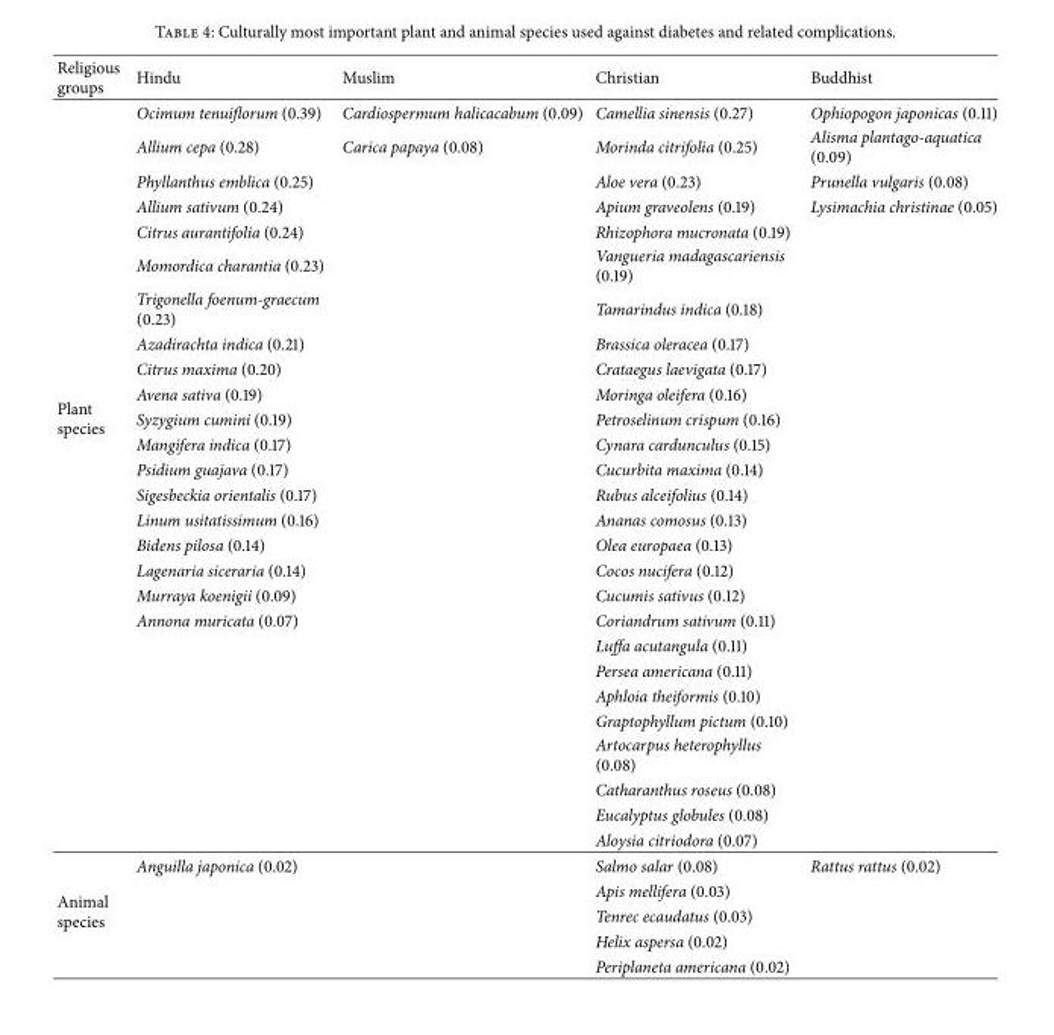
<table><thead><tr><td>Religious groups</td><td>Hindu</td><td>Muslim</td><td>Christian</td><td>Buddhist</td></tr></thead><tbody><tr><td rowspan="27">Plant species</td><td>Ocimum tenuiflorum (0.39)</td><td>Cardiospermum halicacabum (0.09)</td><td>Camellia sinensis (0.27)</td><td>Ophiopogon japonicas (0.11)</td></tr><tr><td>Allium cepa (0.28)</td><td>Carica papaya (0.08)</td><td>Morinda citrifolia (0.25)</td><td>Alisma plantago-aquatica (0.09)</td></tr><tr><td>Phyllanthus emblica (0.25)</td><td></td><td>Aloe vera (0.23)</td><td>Prunella vulgaris (0.08)</td></tr><tr><td>Allium sativum (0.24)</td><td></td><td>Apium graveolens (0.19)</td><td>Lysimachia christinae (0.05)</td></tr><tr><td>Citrus aurantifolia (0.24)</td><td></td><td>Rhizophora mucronata (0.19)</td><td></td></tr><tr><td>Momordica charantia (0.23)</td><td></td><td>Vangueria madagascariensis (0.19)</td><td></td></tr><tr><td>Trigonella foenum-graecum (0.23)</td><td></td><td>Tamarindus indica (0.18)</td><td></td></tr><tr><td>Azadirachta indica (0.21)</td><td></td><td>Brassica oleracea (0.17)</td><td></td></tr><tr><td>Citrus maxima (0.20)</td><td></td><td>Crataegus laevigata (0.17)</td><td></td></tr><tr><td>Avena sativa (0.19)</td><td></td><td>Moringa oleifera (0.16)</td><td></td></tr><tr><td>Syzygium cumini (0.19)</td><td></td><td>Petroselinum crispum (0.16)</td><td></td></tr><tr><td>Mangifera indica (0.17)</td><td></td><td>Cynara cardunculus (0.15)</td><td></td></tr><tr><td>Psidium guajava (0.17)</td><td></td><td>Cucurbita maxima (0.14)</td><td></td></tr><tr><td>Sigesbeckia orientalis (0.17)</td><td></td><td>Rubus alceifolius (0.14)</td><td></td></tr><tr><td>Linum usitatissimum (0.16)</td><td></td><td>Ananas comosus (0.13)</td><td></td></tr><tr><td>Bidens pilosa (0.14)</td><td></td><td>Olea europaea (0.13)</td><td></td></tr><tr><td>Lagenaria siceraria (0.14)</td><td></td><td>Cocos nucifera (0.12)</td><td></td></tr><tr><td>Murraya koenigii (0.09)</td><td></td><td>Cucumis sativus (0.12)</td><td></td></tr><tr><td>Annona muricata (0.07)</td><td></td><td>Coriandrum sativum (0.11)</td><td></td></tr><tr><td></td><td></td><td>Luffa acutangula (0.11)</td><td></td></tr><tr><td></td><td></td><td>Persea americana (0.11)</td><td></td></tr><tr><td></td><td></td><td>Aphloia theiformis (0.10)</td><td></td></tr><tr><td></td><td></td><td>Graptophyllum pictum (0.10)</td><td></td></tr><tr><td></td><td></td><td>Artocarpus heterophyllus (0.08)</td><td></td></tr><tr><td></td><td></td><td>Catharanthus roseus (0.08)</td><td></td></tr><tr><td></td><td></td><td>Eucalyptus globules (0.08)</td><td></td></tr><tr><td></td><td></td><td>Aloysia citriodora (0.07)</td><td></td></tr><tr><td rowspan="5">Animal species</td><td>Anguilla japonica (0.02)</td><td></td><td>Salmo salar (0.08)</td><td>Rattus rattus (0.02)</td></tr><tr><td></td><td></td><td>Apis mellifera (0.03)</td><td></td></tr><tr><td></td><td></td><td>Tenrec ecaudatus (0.03)</td><td></td></tr><tr><td></td><td></td><td>Helix aspersa (0.02)</td><td></td></tr><tr><td></td><td></td><td>Periplaneta americana (0.02)</td><td></td></tr></tbody></table>